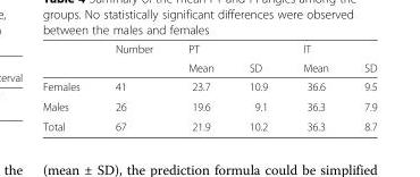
<table><thead><tr><td rowspan="2"></td><td rowspan="2">Number</td><td rowspan="2">PT Mean</td><td rowspan="2">SD</td><td rowspan="2">IT Mean</td><td rowspan="2">SD</td></tr><tr></tr></thead><tbody><tr><td>Females</td><td>41</td><td>23.7</td><td>10.9</td><td>36.6</td><td>9.5</td></tr><tr><td>Males</td><td>26</td><td>19.6</td><td>9.1</td><td>36.3</td><td>7.9</td></tr><tr><td>Total</td><td>67</td><td>21.9</td><td>10.2</td><td>36.3</td><td>8.7</td></tr></tbody></table>